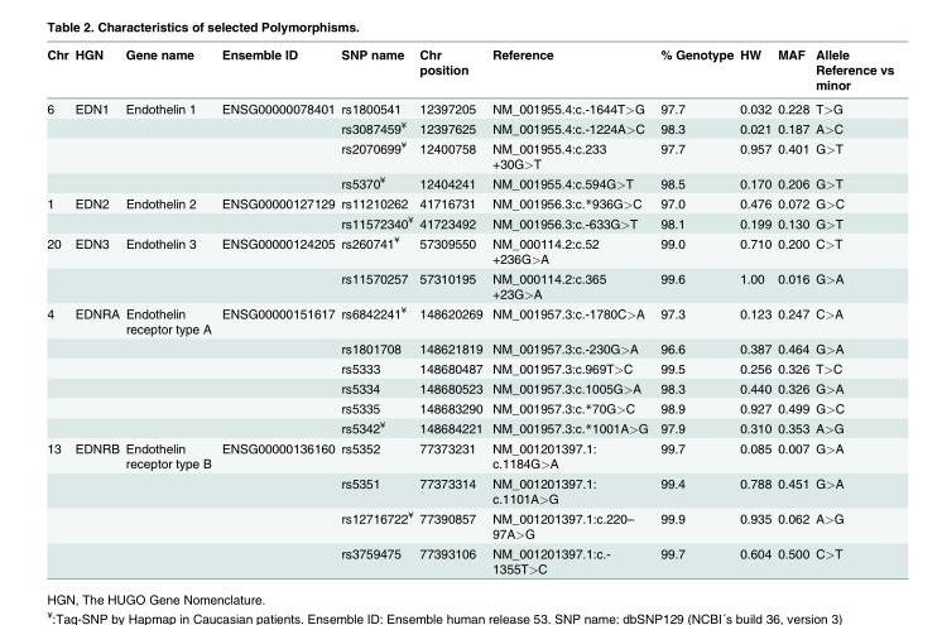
<table><thead><tr><td>Chr</td><td>HGN</td><td>Gene name</td><td>Ensemble ID</td><td>SNP name</td><td>Chr position</td><td>Reference</td><td>% Genotype</td><td>HW</td><td>MAF</td><td>Allele Reference vs minor</td></tr></thead><tbody><tr><td rowspan="4">6</td><td>EDN1</td><td>Endothelin 1</td><td>ENSG00000078401</td><td>rs1800541</td><td>12397205</td><td>NM_001955.4:c.-1644T&gt;G</td><td>97.7</td><td>0.032</td><td>0.228</td><td>T&gt;G</td></tr><tr><td></td><td></td><td></td><td>rs3087459<sup>¥</sup></td><td>12397625</td><td>NM_001955.4:c.-1224A&gt;C</td><td>98.3</td><td>0.021</td><td>0.187</td><td>A&gt;C</td></tr><tr><td></td><td></td><td></td><td>rs2070699<sup>¥</sup></td><td>12400758</td><td>NM_001955.4:c.233 +30G&gt;T</td><td>97.7</td><td>0.957</td><td>0.401</td><td>G&gt;T</td></tr><tr><td></td><td></td><td></td><td>rs5370<sup>¥</sup></td><td>12404241</td><td>NM_001955.4:c.594G&gt;T</td><td>98.5</td><td>0.170</td><td>0.206</td><td>G&gt;T</td></tr><tr><td rowspan="2">1</td><td>EDN2</td><td>Endothelin 2</td><td>ENSG00000127129</td><td>rs11210262</td><td>41716731</td><td>NM_001956.3:c.*936G&gt;C</td><td>97.0</td><td>0.476</td><td>0.072</td><td>G&gt;C</td></tr><tr><td></td><td></td><td></td><td>rs11572340<sup>¥</sup></td><td>41723492</td><td>NM_001956.3:c.-633G&gt;T</td><td>98.1</td><td>0.199</td><td>0.130</td><td>G&gt;T</td></tr><tr><td rowspan="2">20</td><td>EDN3</td><td>Endothelin 3</td><td>ENSG00000124205</td><td>rs260741<sup>¥</sup></td><td>57309550</td><td>NM_000114.2:c.52 +236G&gt;A</td><td>99.0</td><td>0.710</td><td>0.200</td><td>C&gt;T</td></tr><tr><td></td><td></td><td></td><td>rs11570257</td><td>57310195</td><td>NM_000114.2:c.365 +23G&gt;A</td><td>99.6</td><td>1.00</td><td>0.016</td><td>G&gt;A</td></tr><tr><td rowspan="6">4</td><td>EDNRA</td><td>Endothelin receptor type A</td><td>ENSG00000151617</td><td>rs6842241<sup>¥</sup></td><td>148620269</td><td>NM_001957.3:c.-1780C&gt;A</td><td>97.3</td><td>0.123</td><td>0.247</td><td>C&gt;A</td></tr><tr><td></td><td></td><td></td><td>rs1801708</td><td>148621819</td><td>NM_001957.3:c.-230G&gt;A</td><td>96.6</td><td>0.387</td><td>0.464</td><td>G&gt;A</td></tr><tr><td></td><td></td><td></td><td>rs5333</td><td>148680487</td><td>NM_001957.3:c.969T&gt;C</td><td>99.5</td><td>0.256</td><td>0.326</td><td>T&gt;C</td></tr><tr><td></td><td></td><td></td><td>rs5334</td><td>148680523</td><td>NM_001957.3:c.1005G&gt;A</td><td>98.3</td><td>0.440</td><td>0.326</td><td>G&gt;A</td></tr><tr><td></td><td></td><td></td><td>rs5335</td><td>148683290</td><td>NM_001957.3:c.*70G&gt;C</td><td>98.9</td><td>0.927</td><td>0.499</td><td>G&gt;C</td></tr><tr><td></td><td></td><td></td><td>rs5342<sup>¥</sup></td><td>148684221</td><td>NM_001957.3:c.*1001A&gt;G</td><td>97.9</td><td>0.310</td><td>0.353</td><td>A&gt;G</td></tr><tr><td rowspan="4">13</td><td>EDNRB</td><td>Endothelin receptor type B</td><td>ENSG00000136160</td><td>rs5352</td><td>77373231</td><td>NM_001201397.1: c.1184G&gt;A</td><td>99.7</td><td>0.085</td><td>0.007</td><td>G&gt;A</td></tr><tr><td></td><td></td><td></td><td>rs5351</td><td>77373314</td><td>NM_001201397.1: c.1101A&gt;G</td><td>99.4</td><td>0.788</td><td>0.451</td><td>G&gt;A</td></tr><tr><td></td><td></td><td></td><td>rs12716722<sup>¥</sup></td><td>77390857</td><td>NM_001201397.1:c.220– 97A&gt;G</td><td>99.9</td><td>0.935</td><td>0.062</td><td>A&gt;G</td></tr><tr><td></td><td></td><td></td><td>rs3759475</td><td>77393106</td><td>NM_001201397.1:c.- 1355T&gt;C</td><td>99.7</td><td>0.604</td><td>0.500</td><td>C&gt;T</td></tr></tbody></table>